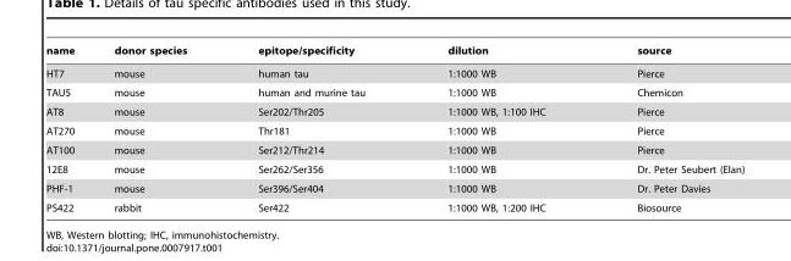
<table><thead><tr><td>name</td><td>donor species</td><td>epitope/specificity</td><td>dilution</td><td>source</td></tr></thead><tbody><tr><td>HT7</td><td>mouse</td><td>human tau</td><td>1:1000 WB</td><td>Pierce</td></tr><tr><td>TAU5</td><td>mouse</td><td>human and murine tau</td><td>1:1000 WB</td><td>Chemicon</td></tr><tr><td>AT8</td><td>mouse</td><td>Ser202/Thr205</td><td>1:1000 WB, 1:100 IHC</td><td>Pierce</td></tr><tr><td>AT270</td><td>mouse</td><td>Thr181</td><td>1:1000 WB</td><td>Pierce</td></tr><tr><td>AT100</td><td>mouse</td><td>Ser212/Thr214</td><td>1:1000 WB</td><td>Pierce</td></tr><tr><td>12E8</td><td>mouse</td><td>Ser262/Ser356</td><td>1:1000 WB</td><td>Dr. Peter Seubert (Elan)</td></tr><tr><td>PHF-1</td><td>mouse</td><td>Ser396/Ser404</td><td>1:1000 WB</td><td>Dr. Peter Davies</td></tr><tr><td>PS422</td><td>rabbit</td><td>Ser422</td><td>1:1000 WB, 1:200 IHC</td><td>Biosource</td></tr></tbody></table>